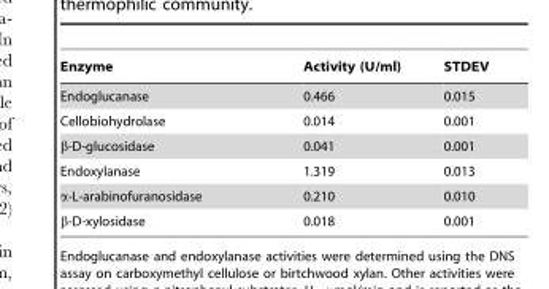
<table><thead><tr><td>Enzyme</td><td>Activity (U/ml)</td><td>STDEV</td></tr></thead><tbody><tr><td>Endoglucanase</td><td>0.466</td><td>0.015</td></tr><tr><td>Cellobiohydrolase</td><td>0.014</td><td>0.001</td></tr><tr><td>β-D-glucosidase</td><td>0.041</td><td>0.001</td></tr><tr><td>Endoxylanase</td><td>1.319</td><td>0.013</td></tr><tr><td>α-L-arabinofuranosidase</td><td>0.210</td><td>0.010</td></tr><tr><td>β-D-xylosidase</td><td>0.018</td><td>0.001</td></tr></tbody></table>